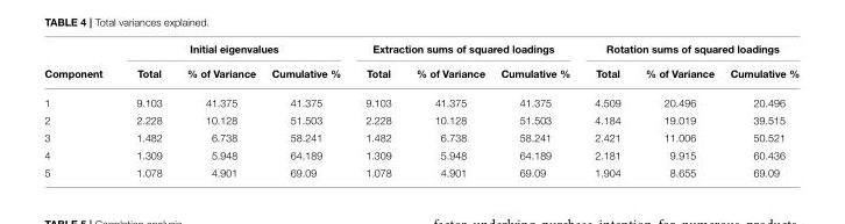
<table><thead><tr><td rowspan="2">Component</td><td colspan="3">Initial eigenvalues</td><td colspan="3">Extraction sums of squared loadings</td><td colspan="3">Rotation sums of squared loadings</td></tr><tr><td>Total</td><td>% of Variance</td><td>Cumulative %</td><td>Total</td><td>% of Variance</td><td>Cumulative %</td><td>Total</td><td>% of Variance</td><td>Cumulative %</td></tr></thead><tbody><tr><td>1</td><td>9.103</td><td>41.375</td><td>41.375</td><td>9.103</td><td>41.375</td><td>41.375</td><td>4.509</td><td>20.496</td><td>20.496</td></tr><tr><td>2</td><td>2.228</td><td>10.128</td><td>51.503</td><td>2.228</td><td>10.128</td><td>51.503</td><td>4.184</td><td>19.019</td><td>39.515</td></tr><tr><td>3</td><td>1.482</td><td>6.738</td><td>58.241</td><td>1.482</td><td>6.738</td><td>58.241</td><td>2.421</td><td>11.006</td><td>50.521</td></tr><tr><td>4</td><td>1.309</td><td>5.948</td><td>64.189</td><td>1.309</td><td>5.948</td><td>64.189</td><td>2.181</td><td>9.915</td><td>60.436</td></tr><tr><td>5</td><td>1.078</td><td>4.901</td><td>69.09</td><td>1.078</td><td>4.901</td><td>69.09</td><td>1.904</td><td>8.655</td><td>69.09</td></tr></tbody></table>